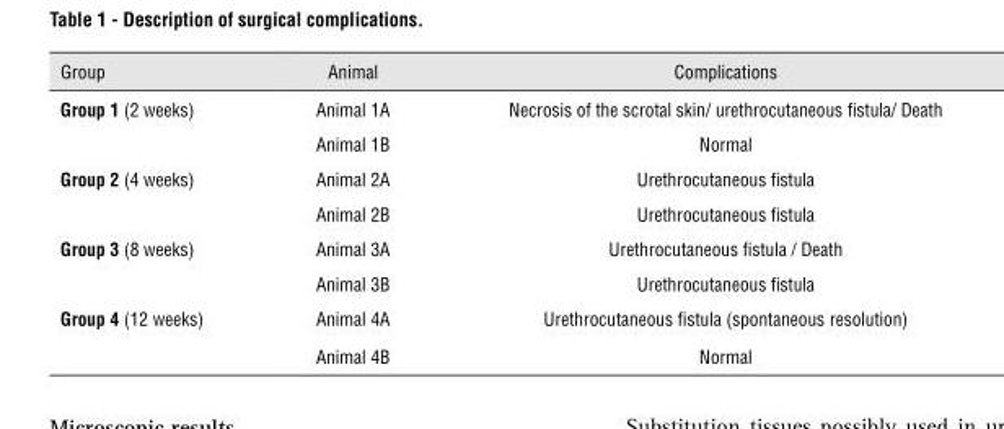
<table><thead><tr><td>Group</td><td>Animal</td><td>Complications</td></tr></thead><tbody><tr><td rowspan="2">group 1 (2 weeks)</td><td>Animal 1A</td><td>Necrosis of the scrotal skin/ urethrocutaneous fistula/ Death</td></tr><tr><td>Animal 1B</td><td>Normal</td></tr><tr><td rowspan="2">group 2 (4 weeks)</td><td>Animal 2A</td><td>Urethrocutaneous fistula</td></tr><tr><td>Animal 2B</td><td>Urethrocutaneous fistula</td></tr><tr><td rowspan="2">group 3 (8 weeks)</td><td>Animal 3A</td><td>Urethrocutaneous fistula / Death</td></tr><tr><td>Animal 3B</td><td>Urethrocutaneous fistula</td></tr><tr><td rowspan="2">group 4 (12 weeks)</td><td>Animal 4A</td><td>Urethrocutaneous fistula (spontaneous resolution)</td></tr><tr><td>Animal 4B</td><td>Normal</td></tr></tbody></table>